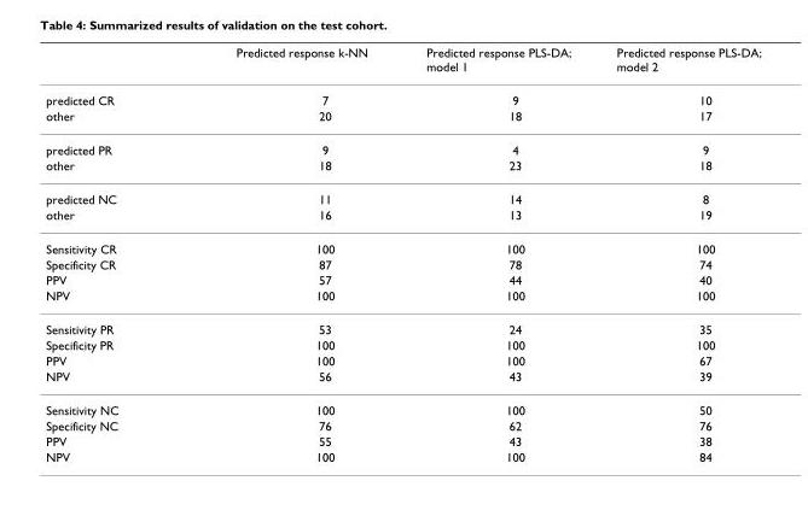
<table><thead><tr><td></td><td>Predicted response k-NN</td><td>Predicted response PLS-DA; model 1</td><td>Predicted response PLS-DA; model 2</td></tr></thead><tbody><tr><td>predicted CR</td><td>7</td><td>9</td><td>10</td></tr><tr><td>other</td><td>20</td><td>18</td><td>17</td></tr><tr><td>predicted PR</td><td>9</td><td>4</td><td>9</td></tr><tr><td>other</td><td>18</td><td>23</td><td>18</td></tr><tr><td>predicted NC</td><td>11</td><td>14</td><td>8</td></tr><tr><td>other</td><td>16</td><td>13</td><td>19</td></tr><tr><td>Sensitivity CR</td><td>100</td><td>100</td><td>100</td></tr><tr><td>Specificity CR</td><td>87</td><td>78</td><td>74</td></tr><tr><td>PPV</td><td>57</td><td>44</td><td>40</td></tr><tr><td>NPV</td><td>100</td><td>100</td><td>100</td></tr><tr><td>Sensitivity PR</td><td>53</td><td>24</td><td>35</td></tr><tr><td>Specificity PR</td><td>100</td><td>100</td><td>100</td></tr><tr><td>PPV</td><td>100</td><td>100</td><td>67</td></tr><tr><td>NPV</td><td>56</td><td>43</td><td>39</td></tr><tr><td>Sensitivity NC</td><td>100</td><td>100</td><td>50</td></tr><tr><td>Specificity NC</td><td>76</td><td>62</td><td>76</td></tr><tr><td>PPV</td><td>55</td><td>43</td><td>38</td></tr><tr><td>NPV</td><td>100</td><td>100</td><td>84</td></tr></tbody></table>